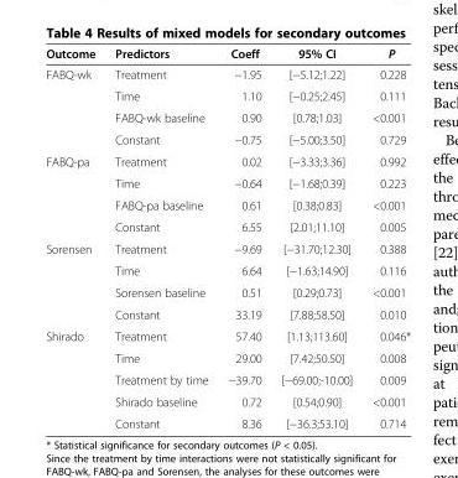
<table><thead><tr><td>Outcome</td><td>Predictors</td><td>Coeff</td><td>95% CI</td><td>P</td></tr></thead><tbody><tr><td rowspan="4">FABQ-wk</td><td>Treatment</td><td>−1.95</td><td>[−5.12;1.22]</td><td>0.228</td></tr><tr><td>Time</td><td>1.10</td><td>[−0.25;2.45]</td><td>0.111</td></tr><tr><td>FABQ-wk baseline</td><td>0.90</td><td>[0.78;1.03]</td><td>&lt;0.001</td></tr><tr><td>Constant</td><td>−0.75</td><td>[−5.00;3.50]</td><td>0.729</td></tr><tr><td rowspan="4">FABQ-pa</td><td>Treatment</td><td>0.02</td><td>[−3.33;3.36]</td><td>0.992</td></tr><tr><td>Time</td><td>−0.64</td><td>[−1.68;0.39]</td><td>0.223</td></tr><tr><td>FABQ-pa baseline</td><td>0.61</td><td>[0.38;0.83]</td><td>&lt;0.001</td></tr><tr><td>Constant</td><td>6.55</td><td>[2.01;11.10]</td><td>0.005</td></tr><tr><td rowspan="4">Sorensen</td><td>Treatment</td><td>−9.69</td><td>[−31.70;12.30]</td><td>0.388</td></tr><tr><td>Time</td><td>6.64</td><td>[−1.63;14.90]</td><td>0.116</td></tr><tr><td>Sorensen baseline</td><td>0.51</td><td>[0.29;0.73]</td><td>&lt;0.001</td></tr><tr><td>Constant</td><td>33.19</td><td>[7.88;58.50]</td><td>0.010</td></tr><tr><td rowspan="5">Shirado</td><td>Treatment</td><td>57.40</td><td>[1.13;113.60]</td><td>0.046*</td></tr><tr><td>Time</td><td>29.00</td><td>[7.42;50.50]</td><td>0.008</td></tr><tr><td>Treatment by time</td><td>−39.70</td><td>[−69.00;-10.00]</td><td>0.009</td></tr><tr><td>Shirado baseline</td><td>0.72</td><td>[0.54;0.90]</td><td>&lt;0.001</td></tr><tr><td>Constant</td><td>8.36</td><td>[−36.3;53.10]</td><td>0.714</td></tr></tbody></table>